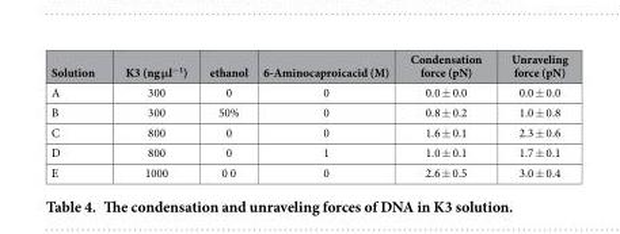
<table><thead><tr><td>Solution</td><td>K3 (ng μl<sup>−1</sup>)</td><td>ethanol</td><td>6-Aminocaproicacid (M)</td><td>Condensation force (pN)</td><td>Unraveling force (pN)</td></tr></thead><tbody><tr><td>A</td><td>300</td><td>0</td><td>0</td><td>0.0 ± 0.0</td><td>0.0 ± 0.0</td></tr><tr><td>B</td><td>300</td><td>50%</td><td>0</td><td>0.8 ± 0.2</td><td>1.0 ± 0.8</td></tr><tr><td>C</td><td>800</td><td>0</td><td>0</td><td>1.6 ± 0.1</td><td>2.3 ± 0.6</td></tr><tr><td>D</td><td>800</td><td>0</td><td>1</td><td>1.0 ± 0.1</td><td>1.7 ± 0.1</td></tr><tr><td>E</td><td>1000</td><td>0 0</td><td>0</td><td>2.6 ± 0.5</td><td>3.0 ± 0.4</td></tr></tbody></table>